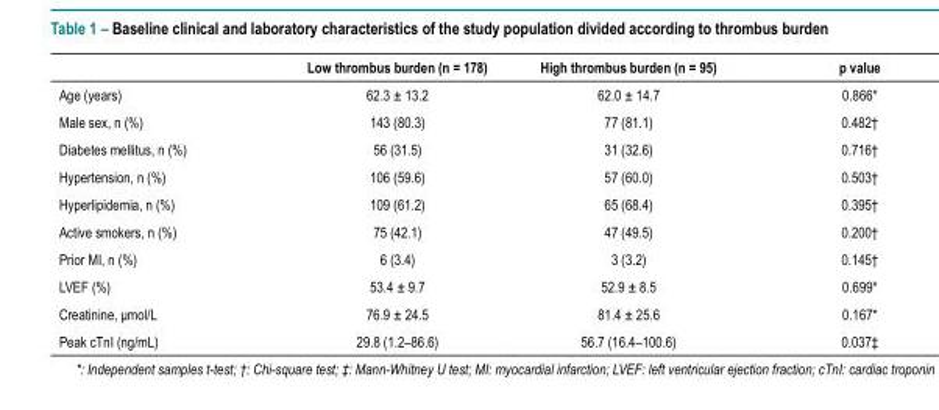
<table><thead><tr><td></td><td>Low thrombus burden (n = 178)</td><td>High thrombus burden (n = 95)</td><td>p value</td></tr></thead><tbody><tr><td>Age (years)</td><td>62.3 ± 13.2</td><td>62.0 ± 14.7</td><td>0.866*</td></tr><tr><td>Male sex, n (%)</td><td>143 (80.3)</td><td>77 (81.1)</td><td>0.482†</td></tr><tr><td>Diabetes mellitus, n (%)</td><td>56 (31.5)</td><td>31 (32.6)</td><td>0.716†</td></tr><tr><td>Hypertension, n (%)</td><td>106 (59.6)</td><td>57 (60.0)</td><td>0.503†</td></tr><tr><td>Hyperlipidemia, n (%)</td><td>109 (61.2)</td><td>65 (68.4)</td><td>0.395†</td></tr><tr><td>Active smokers, n (%)</td><td>75 (42.1)</td><td>47 (49.5)</td><td>0.200†</td></tr><tr><td>Prior MI, n (%)</td><td>6 (3.4)</td><td>3 (3.2)</td><td>0.145†</td></tr><tr><td>LVEF (%)</td><td>53.4 ± 9.7</td><td>52.9 ± 8.5</td><td>0.699*</td></tr><tr><td>Creatinine, μmol/L</td><td>76.9 ± 24.5</td><td>81.4 ± 25.6</td><td>0.167*</td></tr><tr><td>Peak cTnI (ng/mL)</td><td>29.8 (1.2–86.6)</td><td>56.7 (16.4–100.6)</td><td>0.037‡</td></tr></tbody></table>